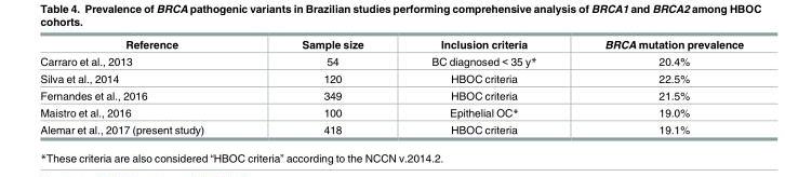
<table><thead><tr><td>Reference</td><td>Sample size</td><td>Inclusion criteria</td><td>BRCA mutation prevalence</td></tr></thead><tbody><tr><td>Carraro et al., 2013</td><td>54</td><td>BC diagnosed &lt; 35 y*</td><td>20.4%</td></tr><tr><td>Silva et al., 2014</td><td>120</td><td>HBOC criteria</td><td>22.5%</td></tr><tr><td>Fernandes et al., 2016</td><td>349</td><td>HBOC criteria</td><td>21.5%</td></tr><tr><td>Maistro et al., 2016</td><td>100</td><td>Epithelial OC*</td><td>19.0%</td></tr><tr><td>Alemar et al., 2017 (present study)</td><td>418</td><td>HBOC criteria</td><td>19.1%</td></tr></tbody></table>